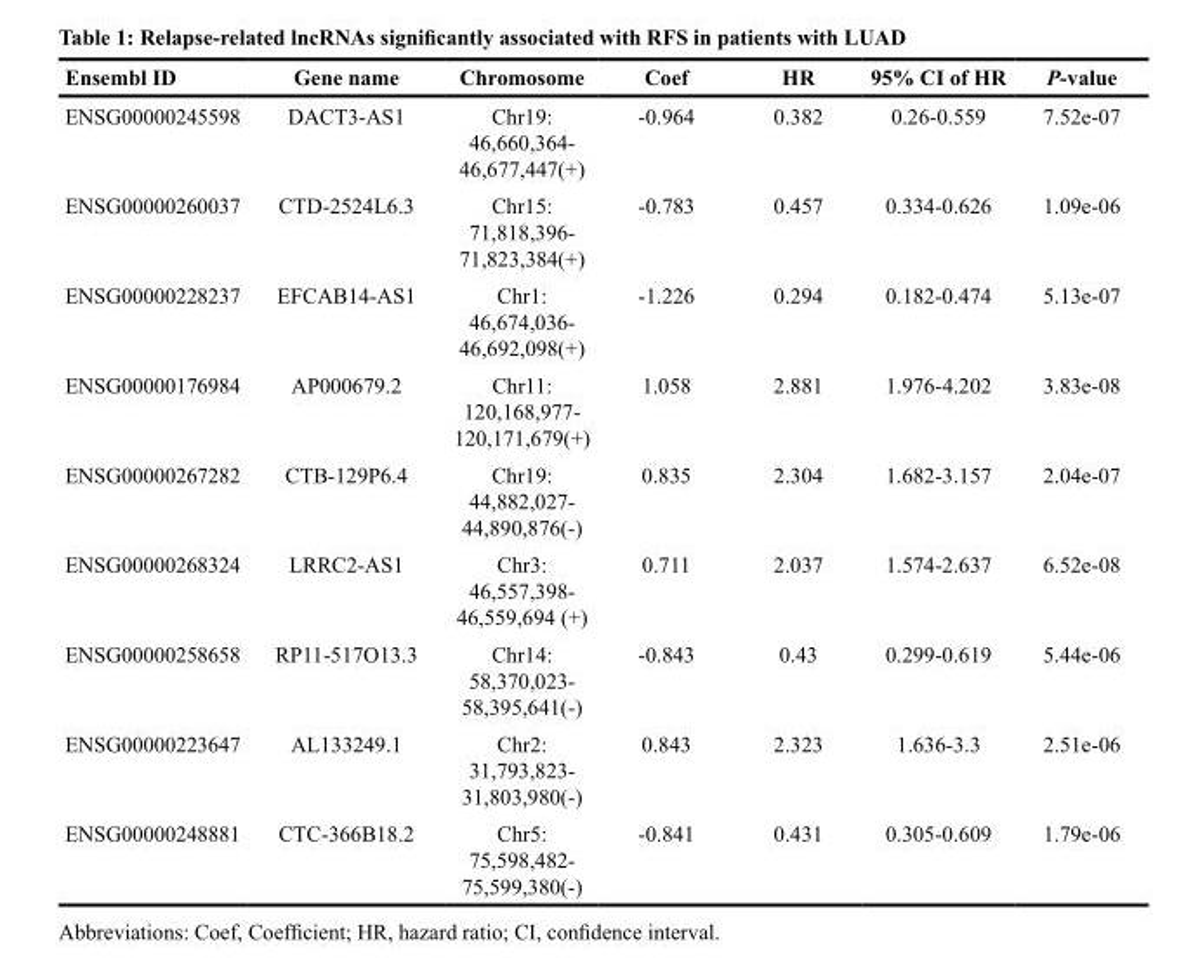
<table><thead><tr><td>Ensembl ID</td><td>Gene name</td><td>Chromosome</td><td>Coef</td><td>HR</td><td>95% CI of HR</td><td>P -value</td></tr></thead><tbody><tr><td>ENSG00000245598</td><td>DACT3-AS1</td><td>Chr19: 46,660,364- 46,677,447(+)</td><td>-0.964</td><td>0.382</td><td>0.26-0.559</td><td>7.52e-07</td></tr><tr><td>ENSG00000260037</td><td>CTD-2524L6.3</td><td>Chr15: 71,818,396- 71,823,384(+)</td><td>-0.783</td><td>0.457</td><td>0.334-0.626</td><td>1.09e-06</td></tr><tr><td>ENSG00000228237</td><td>EFCAB14-AS1</td><td>Chr1: 46,674,036- 46,692,098(+)</td><td>-1.226</td><td>0.294</td><td>0.182-0.474</td><td>5.13e-07</td></tr><tr><td>ENSG00000176984</td><td>AP000679.2</td><td>Chr11: 120,168,977- 120,171,679(+)</td><td>1.058</td><td>2.881</td><td>1.976-4.202</td><td>3.83e-08</td></tr><tr><td>ENSG00000267282</td><td>CTB-129P6.4</td><td>Chr19: 44,882,027- 44,890,876(-)</td><td>0.835</td><td>2.304</td><td>1.682-3.157</td><td>2.04e-07</td></tr><tr><td>ENSG00000268324</td><td>LRRC2-AS1</td><td>Chr3: 46,557,398- 46,559,694 (+)</td><td>0.711</td><td>2.037</td><td>1.574-2.637</td><td>6.52e-08</td></tr><tr><td>ENSG00000258658</td><td>RP11-517O13.3</td><td>Chr14: 58,370,023- 58,395,641(-)</td><td>-0.843</td><td>0.43</td><td>0.299-0.619</td><td>5.44e-06</td></tr><tr><td>ENSG00000223647</td><td>AL133249.1</td><td>Chr2: 31,793,823- 31,803,980(-)</td><td>0.843</td><td>2.323</td><td>1.636-3.3</td><td>2.51e-06</td></tr><tr><td>ENSG00000248881</td><td>CTC-366B18.2</td><td>Chr5: 75,598,482- 75,599,380(-)</td><td>-0.841</td><td>0.431</td><td>0.305-0.609</td><td>1.79e-06</td></tr></tbody></table>